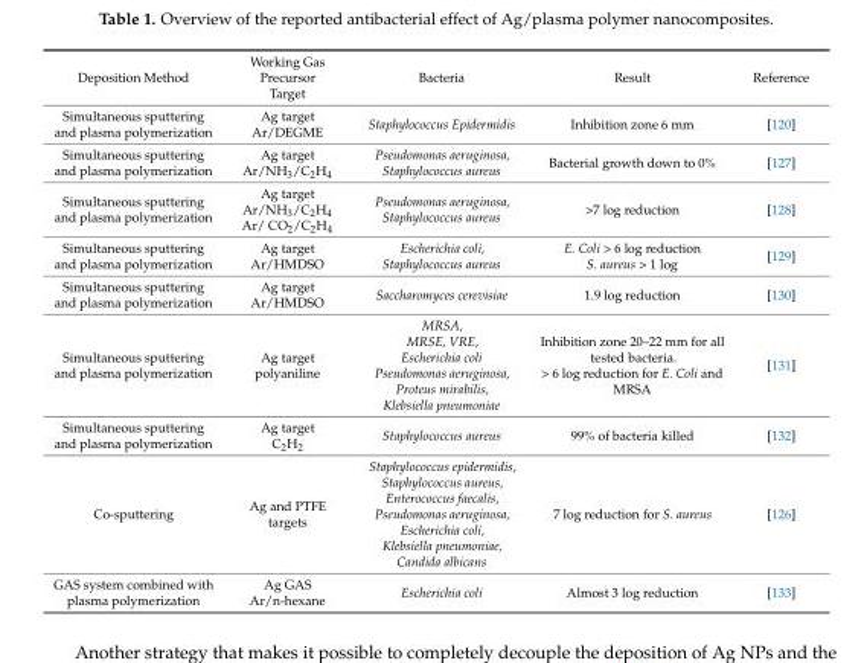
<table><thead><tr><td>Deposition Method</td><td>Working Gas Precursor Target</td><td>Bacteria</td><td>Result</td><td>Reference</td></tr></thead><tbody><tr><td>Simultaneous sputtering and plasma polymerization</td><td>Ag target Ar/DEGME</td><td>Staphylococcus Epidermidis</td><td>Inhibition zone 6 mm</td><td>[120]</td></tr><tr><td>Simultaneous sputtering and plasma polymerization</td><td>Ag target Ar/NH<sub>3</sub>/C<sub>2</sub>H<sub>4</sub></td><td>Pseudomonas aeruginosa, Staphylococcus aureus</td><td>Bacterial growth down to 0%</td><td>[127]</td></tr><tr><td>Simultaneous sputtering and plasma polymerization</td><td>Ag target Ar/NH<sub>3</sub>/C<sub>2</sub>H<sub>4</sub> Ar/ CO<sub>2</sub>/C<sub>2</sub>H<sub>4</sub></td><td>Pseudomonas aeruginosa, Staphylococcus aureus</td><td>&gt;7 log reduction</td><td>[128]</td></tr><tr><td>Simultaneous sputtering and plasma polymerization</td><td>Ag target Ar/HMDSO</td><td>Escherichia coli, Staphylococcus aureus</td><td>E. Coli &gt; 6 log reduction S. aureus &gt; 1 log</td><td>[129]</td></tr><tr><td>Simultaneous sputtering and plasma polymerization</td><td>Ag target Ar/HMDSO</td><td>Saccharomyces cerevisiae</td><td>1.9 log reduction</td><td>[130]</td></tr><tr><td>Simultaneous sputtering and plasma polymerization</td><td>Ag target polyaniline</td><td>MRSA, MRSE, VRE, Escherichia coli Pseudomonas aeruginosa, Proteus mirabilis, Klebsiella pneumoniae</td><td>Inhibition zone 20–22 mm for all tested bacteria. &gt; 6 log reduction for E. Coli and MRSA</td><td>[131]</td></tr><tr><td>Simultaneous sputtering and plasma polymerization</td><td>Ag target C<sub>2</sub>H<sub>2</sub></td><td>Staphylococcus aureus</td><td>99% of bacteria killed</td><td>[132]</td></tr><tr><td>Co-sputtering</td><td>Ag and PTFE targets</td><td>Staphylococcus epidermidis, Staphylococcus aureus, Enterococcus faecalis, Pseudomonas aeruginosa, Escherichia coli, Klebsiella pneumoniae, Candida albicans</td><td>7 log reduction for S. aureus</td><td>[126]</td></tr><tr><td>GAS system combined with plasma polymerization</td><td>Ag GAS Ar/n-hexane</td><td>Escherichia coli</td><td>Almost 3 log reduction</td><td>[133]</td></tr></tbody></table>